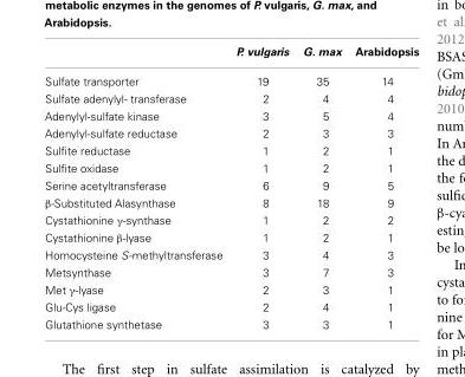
<table><thead><tr><td></td><td>P. vulgaris</td><td>G. max</td><td>Arabidopsis</td></tr></thead><tbody><tr><td>Sulfate transporter</td><td>19</td><td>35</td><td>14</td></tr><tr><td>Sulfate adenylyl- transferase</td><td>2</td><td>4</td><td>4</td></tr><tr><td>Adenylyl-sulfate kinase</td><td>3</td><td>5</td><td>4</td></tr><tr><td>Adenylyl-sulfate reductase</td><td>2</td><td>3</td><td>3</td></tr><tr><td>Sulfite reductase</td><td>1</td><td>2</td><td>1</td></tr><tr><td>Sulfite oxidase</td><td>1</td><td>2</td><td>1</td></tr><tr><td>Serine acetyltransferase</td><td>6</td><td>9</td><td>5</td></tr><tr><td>β-Substituted Alasynthase</td><td>8</td><td>18</td><td>9</td></tr><tr><td>Cystathionine γ-synthase</td><td>1</td><td>2</td><td>2</td></tr><tr><td>Cystathionine β-lyase</td><td>1</td><td>2</td><td>1</td></tr><tr><td>Homocysteine S-methyltransferase</td><td>3</td><td>4</td><td>3</td></tr><tr><td>Metsynthase</td><td>3</td><td>7</td><td>3</td></tr><tr><td>Met γ-lyase</td><td>2</td><td>3</td><td>1</td></tr><tr><td>Glu-Cys ligase</td><td>2</td><td>4</td><td>1</td></tr><tr><td>Glutathione synthetase</td><td>3</td><td>3</td><td>1</td></tr></tbody></table>